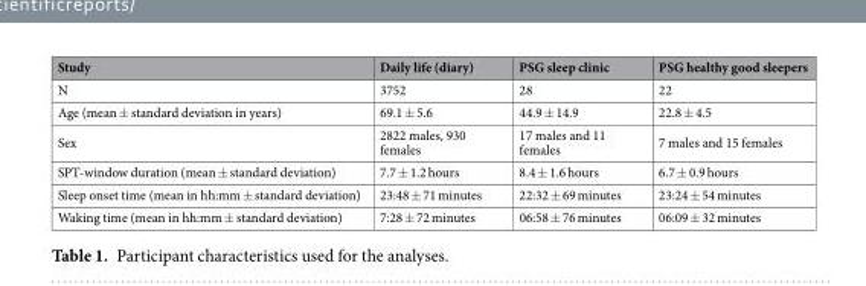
<table><thead><tr><td>Study</td><td>Daily life (diary)</td><td>PSG sleep clinic</td><td>PSG healthy good sleepers</td></tr></thead><tbody><tr><td>N</td><td>3752</td><td>28</td><td>22</td></tr><tr><td>Age (mean ± standard deviation in years)</td><td>69.1 ± 5.6</td><td>44.9 ± 14.9</td><td>22.8 ± 4.5</td></tr><tr><td>Sex</td><td>2822 males, 930 females</td><td>17 males and 11 females</td><td>7 males and 15 females</td></tr><tr><td>SPT-window duration (mean ± standard deviation)</td><td>7.7 ± 1.2 hours</td><td>8.4 ± 1.6 hours</td><td>6.7 ± 0.9 hours</td></tr><tr><td>Sleep onset time (mean in hh:mm ± standard deviation)</td><td>23:48 ± 71 minutes</td><td>22:32 ± 69 minutes</td><td>23:24 ± 54 minutes</td></tr><tr><td>Waking time (mean in hh:mm ± standard deviation)</td><td>7:28 ± 72 minutes</td><td>06:58 ± 76 minutes</td><td>06:09 ± 32 minutes</td></tr></tbody></table>